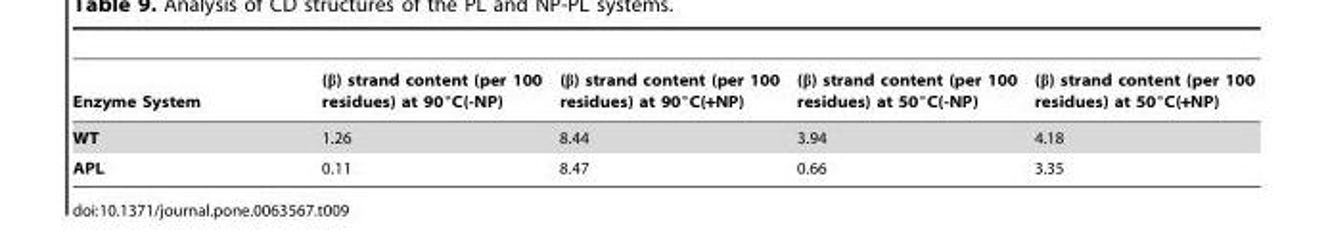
<table><thead><tr><td>Enzyme System</td><td>(β) strand content (per 100 residues) at 90°C(-NP)</td><td>(β) strand content (per 100 residues) at 90°C(+NP)</td><td>(β) strand content (per 100 residues) at 50°C(-NP)</td><td>(β) strand content (per 100 residues) at 50°C(+NP)</td></tr></thead><tbody><tr><td>WT</td><td>1.26</td><td>8.44</td><td>3.94</td><td>4.18</td></tr><tr><td>APL</td><td>0.11</td><td>8.47</td><td>0.66</td><td>3.35</td></tr></tbody></table>